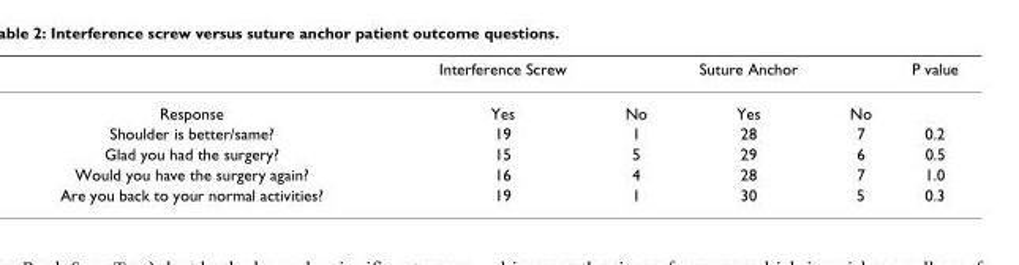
<table><thead><tr><td></td><td>Interference Screw</td><td></td><td>Suture Anchor</td><td></td><td>P value</td></tr></thead><tbody><tr><td>Response</td><td>Yes</td><td>No</td><td>Yes</td><td>No</td><td></td></tr><tr><td>Shoulder is better/same?</td><td>19</td><td>1</td><td>28</td><td>7</td><td>0.2</td></tr><tr><td>Glad you had the surgery?</td><td>15</td><td>5</td><td>29</td><td>6</td><td>0.5</td></tr><tr><td>Would you have the surgery again?</td><td>16</td><td>4</td><td>28</td><td>7</td><td>1.0</td></tr><tr><td>Are you back to your normal activities?</td><td>19</td><td>1</td><td>30</td><td>5</td><td>0.3</td></tr></tbody></table>